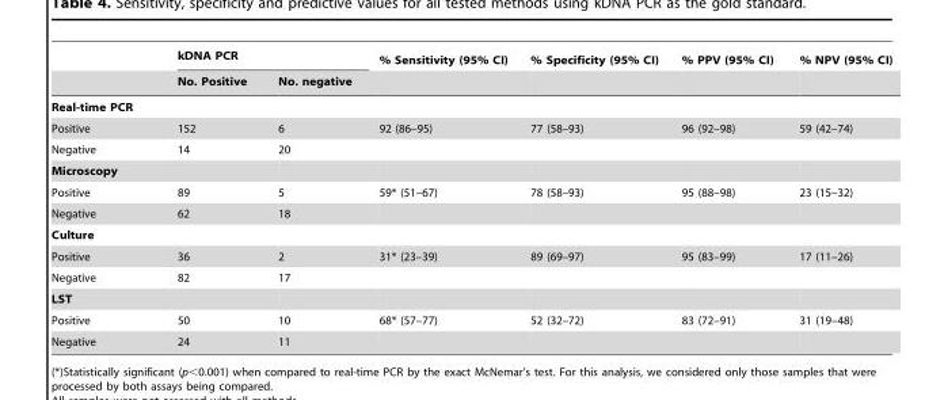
<table><thead><tr><td rowspan="2"></td><td colspan="2">kDNA PCR</td><td rowspan="2">% Sensitivity (95% CI)</td><td rowspan="2">% Specificity (95% CI)</td><td rowspan="2">% PPV (95% CI)</td><td rowspan="2">% NPV (95% CI)</td></tr><tr><td>No. Positive</td><td>No. negative</td></tr></thead><tbody><tr><td colspan="7">Real-time PCR</td></tr><tr><td>Positive</td><td>152</td><td>6</td><td>92 (86–95)</td><td>77 (58–93)</td><td>96 (92–98)</td><td>59 (42–74)</td></tr><tr><td>Negative</td><td>14</td><td>20</td><td></td><td></td><td></td><td></td></tr><tr><td colspan="7">Microscopy</td></tr><tr><td>Positive</td><td>89</td><td>5</td><td>59* (51–67)</td><td>78 (58–93)</td><td>95 (88–98)</td><td>23 (15–32)</td></tr><tr><td>Negative</td><td>62</td><td>18</td><td></td><td></td><td></td><td></td></tr><tr><td colspan="7">Culture</td></tr><tr><td>Positive</td><td>36</td><td>2</td><td>31* (23–39)</td><td>89 (69–97)</td><td>95 (83–99)</td><td>17 (11–26)</td></tr><tr><td>Negative</td><td>82</td><td>17</td><td></td><td></td><td></td><td></td></tr><tr><td colspan="7">LST</td></tr><tr><td>Positive</td><td>50</td><td>10</td><td>68* (57–77)</td><td>52 (32–72)</td><td>83 (72–91)</td><td>31 (19–48)</td></tr><tr><td>Negative</td><td>24</td><td>11</td><td></td><td></td><td></td><td></td></tr></tbody></table>